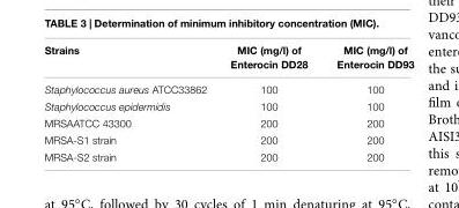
<table><thead><tr><td>Strains</td><td>MIC (mg/l) of Enterocin DD28</td><td>MIC (mg/l) of Enterocin DD93</td></tr></thead><tbody><tr><td>Staphylococcus aureus ATCC33862</td><td>100</td><td>100</td></tr><tr><td>Staphylococcus epidermidis</td><td>100</td><td>100</td></tr><tr><td>MRSAATCC 43300</td><td>200</td><td>200</td></tr><tr><td>MRSA-S1 strain</td><td>200</td><td>200</td></tr><tr><td>MRSA-S2 strain</td><td>200</td><td>200</td></tr></tbody></table>